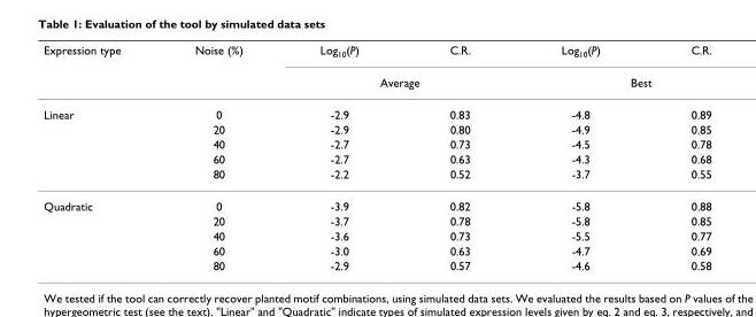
<table><thead><tr><td rowspan="2">Expression type</td><td rowspan="2">Noise (%)</td><td>Log<sub>10</sub>(P)</td><td>C.R.</td><td>Log<sub>10</sub>(P)</td><td>C.R.</td></tr><tr><td colspan="2">Average</td><td colspan="2">Best</td></tr></thead><tbody><tr><td rowspan="5">Linear</td><td>0</td><td>-2.9</td><td>0.83</td><td>-4.8</td><td>0.89</td></tr><tr><td>20</td><td>-2.9</td><td>0.80</td><td>-4.9</td><td>0.85</td></tr><tr><td>40</td><td>-2.7</td><td>0.73</td><td>-4.5</td><td>0.78</td></tr><tr><td>60</td><td>-2.7</td><td>0.63</td><td>-4.3</td><td>0.68</td></tr><tr><td>80</td><td>-2.2</td><td>0.52</td><td>-3.7</td><td>0.55</td></tr><tr><td rowspan="5">Quadratic</td><td>0</td><td>-3.9</td><td>0.82</td><td>-5.8</td><td>0.88</td></tr><tr><td>20</td><td>-3.7</td><td>0.78</td><td>-5.8</td><td>0.85</td></tr><tr><td>40</td><td>-3.6</td><td>0.73</td><td>-5.5</td><td>0.77</td></tr><tr><td>60</td><td>-3.0</td><td>0.63</td><td>-4.7</td><td>0.69</td></tr><tr><td>80</td><td>-2.9</td><td>0.57</td><td>-4.6</td><td>0.58</td></tr></tbody></table>